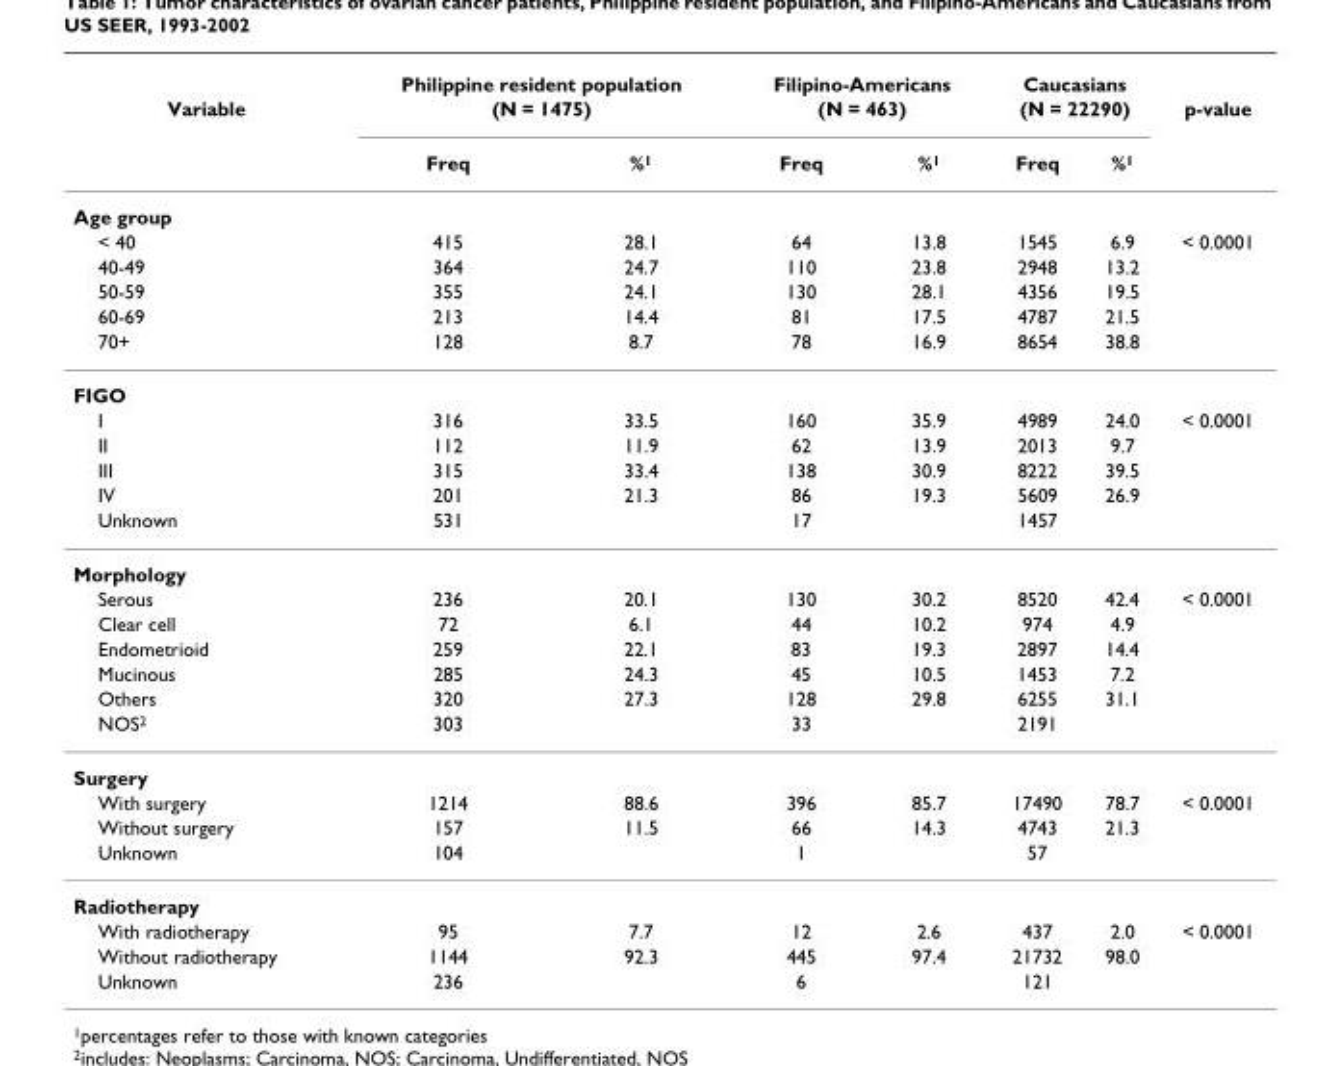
<table><thead><tr><td rowspan="3">Variable</td><td rowspan="2" colspan="2">Philippine resident population (N = 1475)</td><td rowspan="2" colspan="2">Filipino-Americans (N = 463)</td><td rowspan="2" colspan="2">Caucasians (N = 22290)</td><td rowspan="3">p-value</td></tr><tr></tr><tr><td>Freq</td><td>%1</td><td>Freq</td><td>%1</td><td>Freq</td><td>%1</td></tr></thead><tbody><tr><td colspan="8">Age group</td></tr><tr><td>&lt; 40</td><td>415</td><td>28.1</td><td>64</td><td>13.8</td><td>1545</td><td>6.9</td><td>&lt; 0.0001</td></tr><tr><td>40-49</td><td>364</td><td>24.7</td><td>110</td><td>23.8</td><td>2948</td><td>13.2</td><td></td></tr><tr><td>50-59</td><td>355</td><td>24.1</td><td>130</td><td>28.1</td><td>4356</td><td>19.5</td><td></td></tr><tr><td>60-69</td><td>213</td><td>14.4</td><td>81</td><td>17.5</td><td>4787</td><td>21.5</td><td></td></tr><tr><td>70+</td><td>128</td><td>8.7</td><td>78</td><td>16.9</td><td>8654</td><td>38.8</td><td></td></tr><tr><td colspan="8">FIGO</td></tr><tr><td>I</td><td>316</td><td>33.5</td><td>160</td><td>35.9</td><td>4989</td><td>24.0</td><td>&lt; 0.0001</td></tr><tr><td>II</td><td>112</td><td>11.9</td><td>62</td><td>13.9</td><td>2013</td><td>9.7</td><td></td></tr><tr><td>III</td><td>315</td><td>33.4</td><td>138</td><td>30.9</td><td>8222</td><td>39.5</td><td></td></tr><tr><td>IV</td><td>201</td><td>21.3</td><td>86</td><td>19.3</td><td>5609</td><td>26.9</td><td></td></tr><tr><td>Unknown</td><td>531</td><td></td><td>17</td><td></td><td>1457</td><td></td><td></td></tr><tr><td colspan="8">Morphology</td></tr><tr><td>Serous</td><td>236</td><td>20.1</td><td>130</td><td>30.2</td><td>8520</td><td>42.4</td><td>&lt; 0.0001</td></tr><tr><td>Clear cell</td><td>72</td><td>6.1</td><td>44</td><td>10.2</td><td>974</td><td>4.9</td><td></td></tr><tr><td>Endometrioid</td><td>259</td><td>22.1</td><td>83</td><td>19.3</td><td>2897</td><td>14.4</td><td></td></tr><tr><td>Mucinous</td><td>285</td><td>24.3</td><td>45</td><td>10.5</td><td>1453</td><td>7.2</td><td></td></tr><tr><td>Others</td><td>320</td><td>27.3</td><td>128</td><td>29.8</td><td>6255</td><td>31.1</td><td></td></tr><tr><td>NOS<sup>2</sup></td><td>303</td><td></td><td>33</td><td></td><td>2191</td><td></td><td></td></tr><tr><td colspan="8">Surgery</td></tr><tr><td>With surgery</td><td>1214</td><td>88.6</td><td>396</td><td>85.7</td><td>17490</td><td>78.7</td><td>&lt; 0.0001</td></tr><tr><td>Without surgery</td><td>157</td><td>11.5</td><td>66</td><td>14.3</td><td>4743</td><td>21.3</td><td></td></tr><tr><td>Unknown</td><td>104</td><td></td><td>1</td><td></td><td>57</td><td></td><td></td></tr><tr><td colspan="8">Radiotherapy</td></tr><tr><td>With radiotherapy</td><td>95</td><td>7.7</td><td>12</td><td>2.6</td><td>437</td><td>2.0</td><td>&lt; 0.0001</td></tr><tr><td>Without radiotherapy</td><td>1144</td><td>92.3</td><td>445</td><td>97.4</td><td>21732</td><td>98.0</td><td></td></tr><tr><td>Unknown</td><td>236</td><td></td><td>6</td><td></td><td>121</td><td></td><td></td></tr></tbody></table>